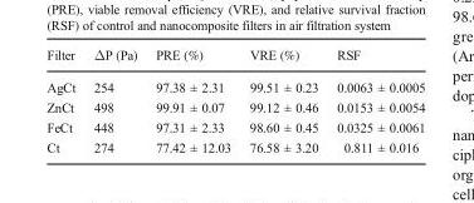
<table><thead><tr><td>Filter</td><td>ΔP (Pa)</td><td>PRE (%)</td><td>VRE (%)</td><td>RSF</td></tr></thead><tbody><tr><td>AgCt</td><td>254</td><td>97.38 ± 2.31</td><td>99.51 ± 0.23</td><td>0.0063 ± 0.0005</td></tr><tr><td>ZnCt</td><td>498</td><td>99.91 ± 0.07</td><td>99.12 ± 0.46</td><td>0.0153 ± 0.0054</td></tr><tr><td>FeCt</td><td>448</td><td>97.31 ± 2.33</td><td>98.60 ± 0.45</td><td>0.0325 ± 0.0061</td></tr><tr><td>Ct</td><td>274</td><td>77.42 ± 12.03</td><td>76.58 ± 3.20</td><td>0.811 ± 0.016</td></tr></tbody></table>